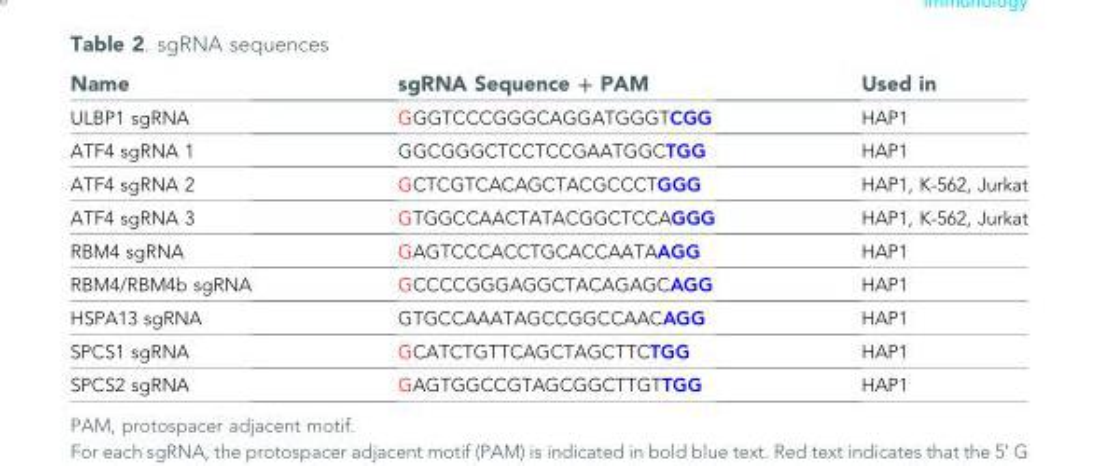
<table><thead><tr><td>Name</td><td>sgRNA Sequence + PAM</td><td>Used in</td></tr></thead><tbody><tr><td>ULBP1 sgRNA</td><td>GGGTCCCGGGCAGGATGGGTCGG</td><td>HAP1</td></tr><tr><td>ATF4 sgRNA 1</td><td>GGCGGGCTCCTCCGAATGGCTGG</td><td>HAP1</td></tr><tr><td>ATF4 sgRNA 2</td><td>GCTCGTCACAGCTACGCCCTGGG</td><td>HAP1, K-562, Jurkat</td></tr><tr><td>ATF4 sgRNA 3</td><td>GTGGCCAACTATACGGCTCCAGGG</td><td>HAP1, K-562, Jurkat</td></tr><tr><td>RBM4 sgRNA</td><td>GAGTCCCACCTGCACCAATAAGG</td><td>HAP1</td></tr><tr><td>RBM4/RBM4b sgRNA</td><td>GCCCCGGGAGGCTACAGAGCAGG</td><td>HAP1</td></tr><tr><td>HSPA13 sgRNA</td><td>GTGCCAAATAGCCGGCCAACAGG</td><td>HAP1</td></tr><tr><td>SPCS1 sgRNA</td><td>GCATCTGTTCAGCTAGCTTCTGG</td><td>HAP1</td></tr><tr><td>SPCS2 sgRNA</td><td>GAGTGGCCGTAGCGGCTTGTTGG</td><td>HAP1</td></tr></tbody></table>